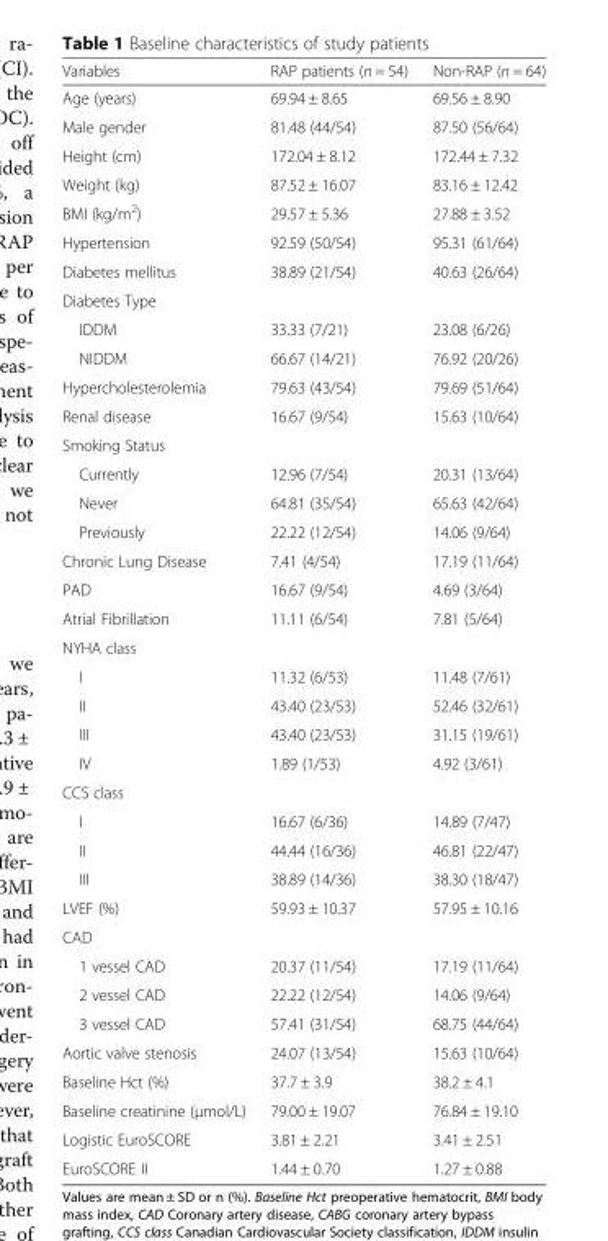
<table><thead><tr><td>Variables</td><td>RAP patients (n = 54)</td><td>Non-RAP (n = 64)</td></tr></thead><tbody><tr><td>Age (years)</td><td>69.94 ± 8.65</td><td>69.56 ± 8.90</td></tr><tr><td>Male gender</td><td>81.48 (44/54)</td><td>87.50 (56/64)</td></tr><tr><td>Height (cm)</td><td>172.04 ± 8.12</td><td>172.44 ± 7.32</td></tr><tr><td>Weight (kg)</td><td>87.52 ± 16.07</td><td>83.16 ± 12.42</td></tr><tr><td>BMI (kg/m<sup>2</sup>)</td><td>29.57 ± 5.36</td><td>27.88 ± 3.52</td></tr><tr><td>Hypertension</td><td>92.59 (50/54)</td><td>95.31 (61/64)</td></tr><tr><td>Diabetes mellitus</td><td>38.89 (21/54)</td><td>40.63 (26/64)</td></tr><tr><td colspan="3">Diabetes Type</td></tr><tr><td>IDDM</td><td>33.33 (7/21)</td><td>23.08 (6/26)</td></tr><tr><td>NIDDM</td><td>66.67 (14/21)</td><td>76.92 (20/26)</td></tr><tr><td>Hypercholesterolemia</td><td>79.63 (43/54)</td><td>79.69 (51/64)</td></tr><tr><td>Renal disease</td><td>16.67 (9/54)</td><td>15.63 (10/64)</td></tr><tr><td colspan="3">Smoking Status</td></tr><tr><td>Currently</td><td>12.96 (7/54)</td><td>20.31 (13/64)</td></tr><tr><td>Never</td><td>64.81 (35/54)</td><td>65.63 (42/64)</td></tr><tr><td>Previously</td><td>22.22 (12/54)</td><td>14.06 (9/64)</td></tr><tr><td>Chronic Lung Disease</td><td>7.41 (4/54)</td><td>17.19 (11/64)</td></tr><tr><td>PAD</td><td>16.67 (9/54)</td><td>4.69 (3/64)</td></tr><tr><td>Atrial Fibrillation</td><td>11.11 (6/54)</td><td>7.81 (5/64)</td></tr><tr><td colspan="3">NYHA class</td></tr><tr><td>I</td><td>11.32 (6/53)</td><td>11.48 (7/61)</td></tr><tr><td>II</td><td>43.40 (23/53)</td><td>52.46 (32/61)</td></tr><tr><td>III</td><td>43.40 (23/53)</td><td>31.15 (19/61)</td></tr><tr><td>IV</td><td>1.89 (1/53)</td><td>4.92 (3/61)</td></tr><tr><td colspan="3">CCS class</td></tr><tr><td>I</td><td>16.67 (6/36)</td><td>14.89 (7/47)</td></tr><tr><td>II</td><td>44.44 (16/36)</td><td>46.81 (22/47)</td></tr><tr><td>III</td><td>38.89 (14/36)</td><td>38.30 (18/47)</td></tr><tr><td>LVEF (%)</td><td>59.93 ± 10.37</td><td>57.95 ± 10.16</td></tr><tr><td colspan="3">CAD</td></tr><tr><td>1 vessel CAD</td><td>20.37 (11/54)</td><td>17.19 (11/64)</td></tr><tr><td>2 vessel CAD</td><td>22.22 (12/54)</td><td>14.06 (9/64)</td></tr><tr><td>3 vessel CAD</td><td>57.41 (31/54)</td><td>68.75 (44/64)</td></tr><tr><td>Aortic valve stenosis</td><td>24.07 (13/54)</td><td>15.63 (10/64)</td></tr><tr><td>Baseline Hct (%)</td><td>37.7 ± 3.9</td><td>38.2 ± 4.1</td></tr><tr><td>Baseline creatinine (μmol/L)</td><td>79.00 ± 19.07</td><td>76.84 ± 19.10</td></tr><tr><td>Logistic EuroSCORE</td><td>3.81 ± 2.21</td><td>3.41 ± 2.51</td></tr><tr><td>EuroSCORE II</td><td>1.44 ± 0.70</td><td>1.27 ± 0.88</td></tr></tbody></table>